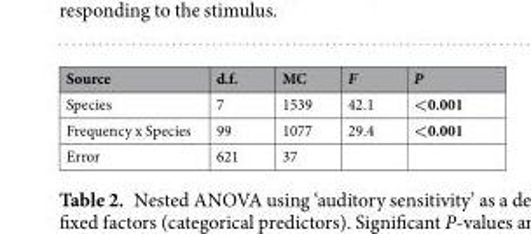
<table><thead><tr><td>Source</td><td>d.f.</td><td>MC</td><td>F</td><td>P</td></tr></thead><tbody><tr><td>Species</td><td>7</td><td>1539</td><td>42.1</td><td>&lt;0.001</td></tr><tr><td>Frequency x Species</td><td>99</td><td>1077</td><td>29.4</td><td>&lt;0.001</td></tr><tr><td>Error</td><td>621</td><td>37</td><td></td><td></td></tr></tbody></table>